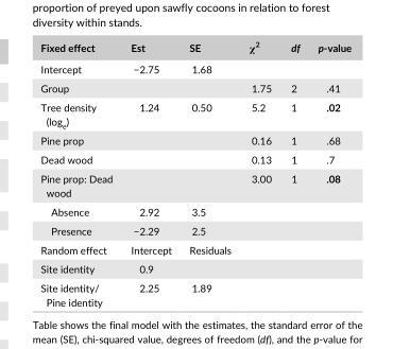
<table><thead><tr><td>Fixed effect</td><td>Est</td><td>SE</td><td>χ<sup>2</sup></td><td>df</td><td>p- value</td></tr></thead><tbody><tr><td>Intercept</td><td>−2.75</td><td>1.68</td><td></td><td></td><td></td></tr><tr><td>Group</td><td></td><td></td><td>1.75</td><td>2</td><td>.41</td></tr><tr><td>Tree density (log<sub>e</sub>)</td><td>1.24</td><td>0.50</td><td>5.2</td><td>1</td><td>.02</td></tr><tr><td>Pine prop</td><td></td><td></td><td>0.16</td><td>1</td><td>.68</td></tr><tr><td>Dead wood</td><td></td><td></td><td>0.13</td><td>1</td><td>.7</td></tr><tr><td>Pine prop: Dead wood</td><td></td><td></td><td>3.00</td><td>1</td><td>.08</td></tr><tr><td>Absence</td><td>2.92</td><td>3.5</td><td></td><td></td><td></td></tr><tr><td>Presence</td><td>−2.29</td><td>2.5</td><td></td><td></td><td></td></tr><tr><td>Random effect</td><td>Intercept</td><td>Residuals</td><td></td><td></td><td></td></tr><tr><td>Site identity</td><td>0.9</td><td></td><td></td><td></td><td></td></tr><tr><td>Site identity/ Pine identity</td><td>2.25</td><td>1.89</td><td></td><td></td><td></td></tr></tbody></table>